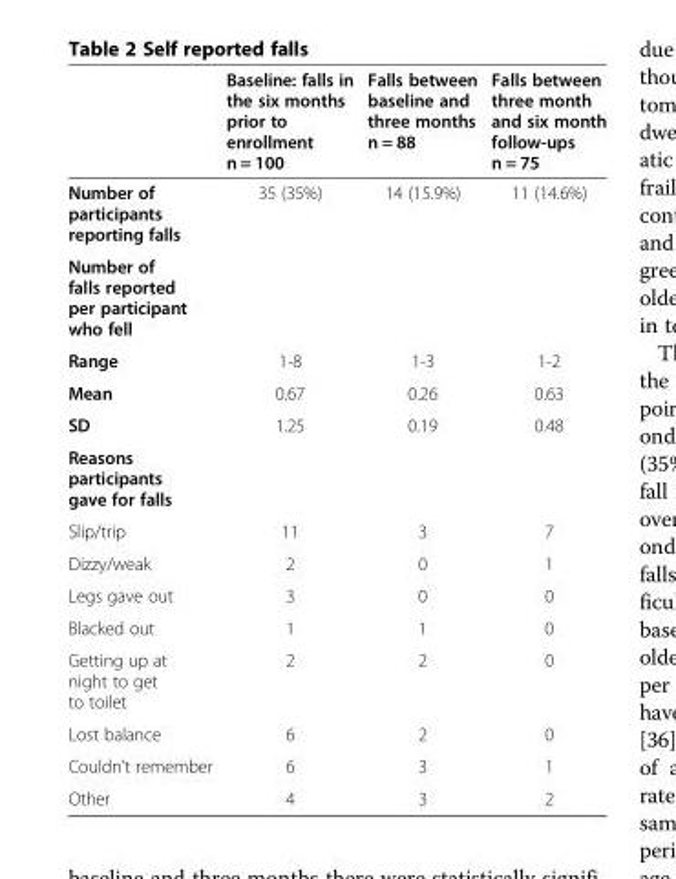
<table><thead><tr><td></td><td>Baseline: falls in the six months prior to enrollment n = 100</td><td>Falls between baseline and three months n = 88</td><td>Falls between three month and six month follow-ups n = 75</td></tr></thead><tbody><tr><td>Number of participants reporting falls</td><td>35 (35%)</td><td>14 (15.9%)</td><td>11 (14.6%)</td></tr><tr><td colspan="4">Number of falls reported per participant who fell</td></tr><tr><td>Range</td><td>1-8</td><td>1-3</td><td>1-2</td></tr><tr><td>Mean</td><td>0.67</td><td>0.26</td><td>0.63</td></tr><tr><td>SD</td><td>1.25</td><td>0.19</td><td>0.48</td></tr><tr><td colspan="4">Reasons participants gave for falls</td></tr><tr><td>Slip/trip</td><td>11</td><td>3</td><td>7</td></tr><tr><td>Dizzy/weak</td><td>2</td><td>0</td><td>1</td></tr><tr><td>Legs gave out</td><td>3</td><td>0</td><td>0</td></tr><tr><td>Blacked out</td><td>1</td><td>1</td><td>0</td></tr><tr><td>Getting up at night to get to toilet</td><td>2</td><td>2</td><td>0</td></tr><tr><td>Lost balance</td><td>6</td><td>2</td><td>0</td></tr><tr><td>Couldn’t remember</td><td>6</td><td>3</td><td>1</td></tr><tr><td>Other</td><td>4</td><td>3</td><td>2</td></tr></tbody></table>